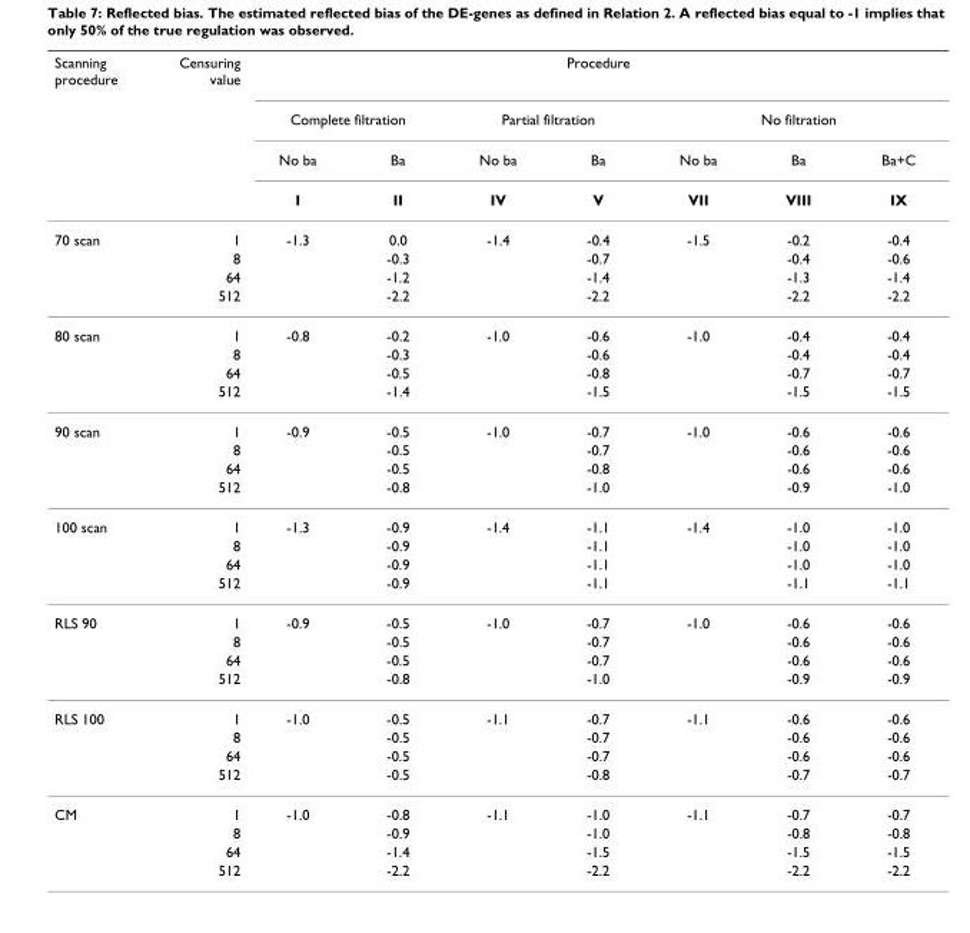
<table><thead><tr><td rowspan="4">Scanning procedure</td><td rowspan="4">Censuring value</td><td colspan="7">Procedure</td></tr><tr><td colspan="2">Complete filtration</td><td colspan="2">Partial filtration</td><td colspan="3">No filtration</td></tr><tr><td rowspan="2">No ba I</td><td rowspan="2">Ba II</td><td rowspan="2">No ba IV</td><td rowspan="2">Ba V</td><td rowspan="2">No ba VII</td><td rowspan="2">Ba VIII</td><td rowspan="2">Ba+C IX</td></tr><tr></tr></thead><tbody><tr><td rowspan="4">70 scan</td><td>1</td><td>-1.3</td><td>0.0</td><td>-1.4</td><td>-0.4</td><td>-1.5</td><td>-0.2</td><td>-0.4</td></tr><tr><td>8</td><td></td><td>-0.3</td><td></td><td>-0.7</td><td></td><td>-0.4</td><td>-0.6</td></tr><tr><td>64</td><td></td><td>-1.2</td><td></td><td>-1.4</td><td></td><td>-1.3</td><td>-1.4</td></tr><tr><td>512</td><td></td><td>-2.2</td><td></td><td>-2.2</td><td></td><td>-2.2</td><td>-2.2</td></tr><tr><td rowspan="4">80 scan</td><td>1</td><td>-0.8</td><td>-0.2</td><td>-1.0</td><td>-0.6</td><td>-1.0</td><td>-0.4</td><td>-0.4</td></tr><tr><td>8</td><td></td><td>-0.3</td><td></td><td>-0.6</td><td></td><td>-0.4</td><td>-0.4</td></tr><tr><td>64</td><td></td><td>-0.5</td><td></td><td>-0.8</td><td></td><td>-0.7</td><td>-0.7</td></tr><tr><td>512</td><td></td><td>-1.4</td><td></td><td>-1.5</td><td></td><td>-1.5</td><td>-1.5</td></tr><tr><td rowspan="4">90 scan</td><td>1</td><td>-0.9</td><td>-0.5</td><td>-1.0</td><td>-0.7</td><td>-1.0</td><td>-0.6</td><td>-0.6</td></tr><tr><td>8</td><td></td><td>-0.5</td><td></td><td>-0.7</td><td></td><td>-0.6</td><td>-0.6</td></tr><tr><td>64</td><td></td><td>-0.5</td><td></td><td>-0.8</td><td></td><td>-0.6</td><td>-0.6</td></tr><tr><td>512</td><td></td><td>-0.8</td><td></td><td>-1.0</td><td></td><td>-0.9</td><td>-1.0</td></tr><tr><td rowspan="4">100 scan</td><td>1</td><td>-1.3</td><td>-0.9</td><td>-1.4</td><td>-1.1</td><td>-1.4</td><td>-1.0</td><td>-1.0</td></tr><tr><td>8</td><td></td><td>-0.9</td><td></td><td>-1.1</td><td></td><td>-1.0</td><td>-1.0</td></tr><tr><td>64</td><td></td><td>-0.9</td><td></td><td>-1.1</td><td></td><td>-1.0</td><td>-1.0</td></tr><tr><td>512</td><td></td><td>-0.9</td><td></td><td>-1.1</td><td></td><td>-1.1</td><td>-1.1</td></tr><tr><td rowspan="4">RLS 90</td><td>1</td><td>-0.9</td><td>-0.5</td><td>-1.0</td><td>-0.7</td><td>-1.0</td><td>-0.6</td><td>-0.6</td></tr><tr><td>8</td><td></td><td>-0.5</td><td></td><td>-0.7</td><td></td><td>-0.6</td><td>-0.6</td></tr><tr><td>64</td><td></td><td>-0.5</td><td></td><td>-0.7</td><td></td><td>-0.6</td><td>-0.6</td></tr><tr><td>512</td><td></td><td>-0.8</td><td></td><td>-1.0</td><td></td><td>-0.9</td><td>-0.9</td></tr><tr><td rowspan="4">RLS 100</td><td>1</td><td>-1.0</td><td>-0.5</td><td>-1.1</td><td>-0.7</td><td>-1.1</td><td>-0.6</td><td>-0.6</td></tr><tr><td>8</td><td></td><td>-0.5</td><td></td><td>-0.7</td><td></td><td>-0.6</td><td>-0.6</td></tr><tr><td>64</td><td></td><td>-0.5</td><td></td><td>-0.7</td><td></td><td>-0.6</td><td>-0.6</td></tr><tr><td>512</td><td></td><td>-0.5</td><td></td><td>-0.8</td><td></td><td>-0.7</td><td>-0.7</td></tr><tr><td rowspan="4">CM</td><td>1</td><td>-1.0</td><td>-0.8</td><td>-1.1</td><td>-1.0</td><td>-1.1</td><td>-0.7</td><td>-0.7</td></tr><tr><td>8</td><td></td><td>-0.9</td><td></td><td>-1.0</td><td></td><td>-0.8</td><td>-0.8</td></tr><tr><td>64</td><td></td><td>-1.4</td><td></td><td>-1.5</td><td></td><td>-1.5</td><td>-1.5</td></tr><tr><td>512</td><td></td><td>-2.2</td><td></td><td>-2.2</td><td></td><td>-2.2</td><td>-2.2</td></tr></tbody></table>